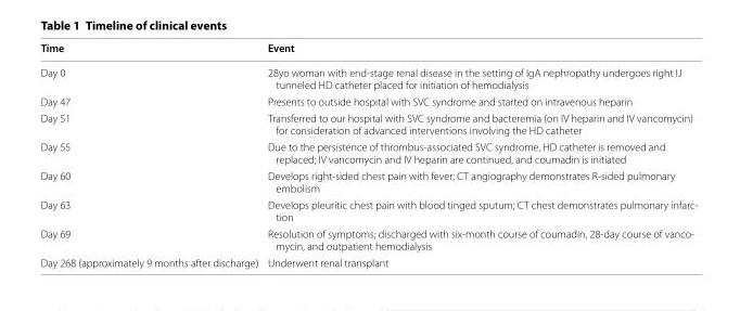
<table><thead><tr><td>Time</td><td>Event</td></tr></thead><tbody><tr><td>Day 0</td><td>28yo woman with end-stage renal disease in the setting of IgA nephropathy undergoes right IJ tunneled HD catheter placed for initiation of hemodialysis</td></tr><tr><td>Day 47</td><td>Presents to outside hospital with SVC syndrome and started on intravenous heparin</td></tr><tr><td>Day 51</td><td>Transferred to our hospital with SVC syndrome and bacteremia (on IV heparin and IV vancomycin) for consideration of advanced interventions involving the HD catheter</td></tr><tr><td>Day 55</td><td>Due to the persistence of thrombus-associated SVC syndrome, HD catheter is removed and replaced; IV vancomycin and IV heparin are continued, and coumadin is initiated</td></tr><tr><td>Day 60</td><td>Develops right-sided chest pain with fever; CT angiography demonstrates R-sided pulmonary embolism</td></tr><tr><td>Day 63</td><td>Develops pleuritic chest pain with blood tinged sputum; CT chest demonstrates pulmonary infarc- tion</td></tr><tr><td>Day 69</td><td>Resolution of symptoms; discharged with six-month course of coumadin, 28-day course of vanco- mycin, and outpatient hemodialysis</td></tr><tr><td>Day 268 (approximately 9 months after discharge)</td><td>Underwent renal transplant</td></tr></tbody></table>